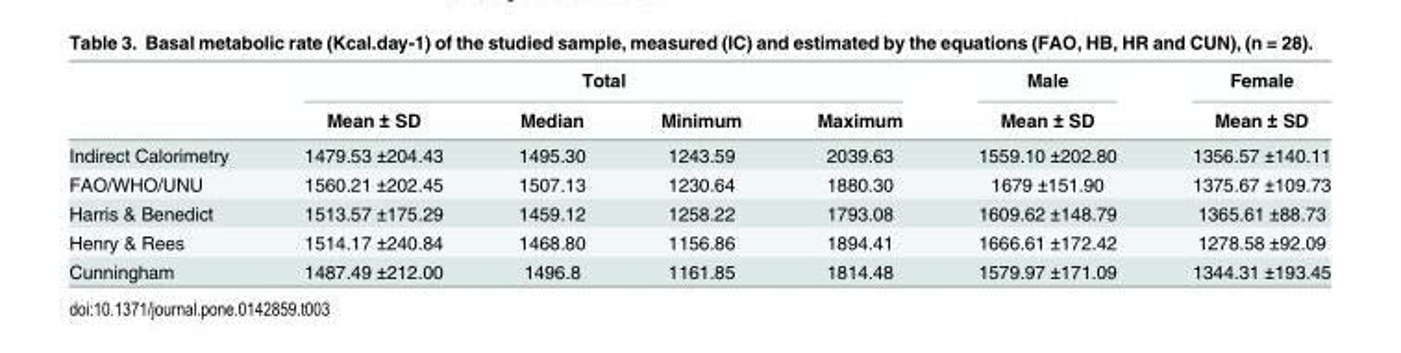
<table><thead><tr><td rowspan="2"></td><td colspan="4">Total</td><td rowspan="2">Male Mean ± SD</td><td rowspan="2">Female Mean ± SD</td></tr><tr><td>Mean ± SD</td><td>Median</td><td>Minimum</td><td>Maximum</td></tr></thead><tbody><tr><td>Indirect Calorimetry</td><td>1479.53 ±204.43</td><td>1495.30</td><td>1243.59</td><td>2039.63</td><td>1559.10 ±202.80</td><td>1356.57 ±140.11</td></tr><tr><td>FAO/WHO/UNU</td><td>1560.21 ±202.45</td><td>1507.13</td><td>1230.64</td><td>1880.30</td><td>1679 ±151.90</td><td>1375.67 ±109.73</td></tr><tr><td>Harris &amp; Benedict</td><td>1513.57 ±175.29</td><td>1459.12</td><td>1258.22</td><td>1793.08</td><td>1609.62 ±148.79</td><td>1365.61 ±88.73</td></tr><tr><td>Henry &amp; Rees</td><td>1514.17 ±240.84</td><td>1468.80</td><td>1156.86</td><td>1894.41</td><td>1666.61 ±172.42</td><td>1278.58 ±92.09</td></tr><tr><td>Cunningham</td><td>1487.49 ±212.00</td><td>1496.8</td><td>1161.85</td><td>1814.48</td><td>1579.97 ±171.09</td><td>1344.31 ±193.45</td></tr></tbody></table>